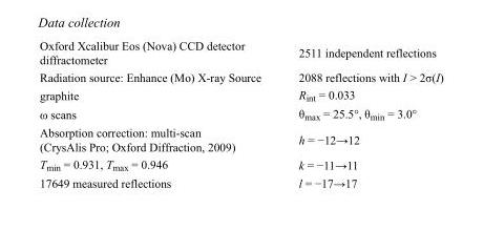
<table><tbody><tr><td>Oxford Xcalibur Eos (Nova) CCD detector diffractometer</td><td>2511 independent reflections</td></tr><tr><td>Radiation source: Enhance (Mo) X-ray Source</td><td>2088 reflections with I &gt; 2σ(I)</td></tr><tr><td>graphite</td><td>R<sub>int</sub> = 0.033</td></tr><tr><td>ω scans</td><td>θ<sub>max</sub> = 25.5°, θ<sub>min</sub> = 3.0°</td></tr><tr><td>Absorption correction: multi-scan (CrysAlis Pro; Oxford Diffraction, 2009)</td><td>h = −12→12</td></tr><tr><td>T<sub>min</sub> = 0.931, T<sub>max</sub> = 0.946</td><td>k = −11→11</td></tr><tr><td>17649 measured reflections</td><td>l = −17→17</td></tr></tbody></table>